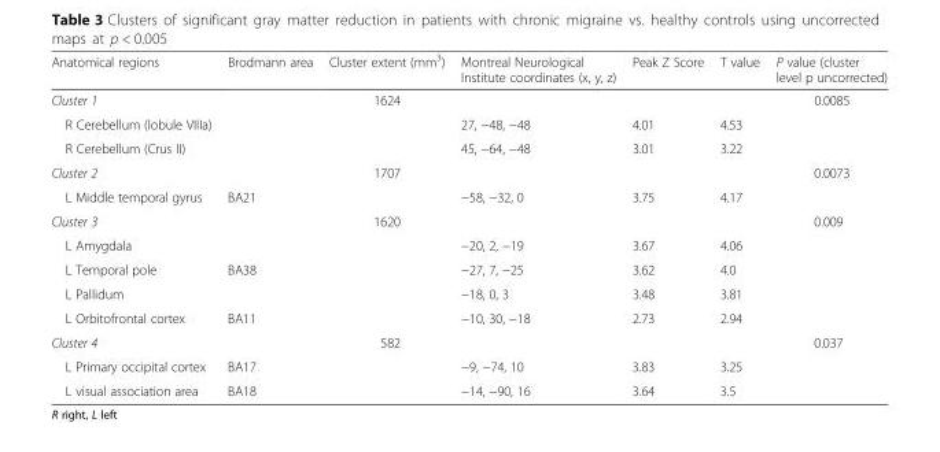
<table><thead><tr><td>Anatomical regions</td><td>Brodmann area</td><td>Cluster extent (mm<sup>3</sup>)</td><td>Montreal Neurological Institute coordinates (x, y, z)</td><td>Peak Z Score</td><td>T value</td><td>P value (cluster level p uncorrected)</td></tr></thead><tbody><tr><td>Cluster 1</td><td></td><td>1624</td><td></td><td></td><td></td><td>0.0085</td></tr><tr><td>R Cerebellum (lobule VIIIa)</td><td></td><td></td><td>27, −48, −48</td><td>4.01</td><td>4.53</td><td></td></tr><tr><td>R Cerebellum (Crus II)</td><td></td><td></td><td>45, −64, −48</td><td>3.01</td><td>3.22</td><td></td></tr><tr><td>Cluster 2</td><td></td><td>1707</td><td></td><td></td><td></td><td>0.0073</td></tr><tr><td>L Middle temporal gyrus</td><td>BA21</td><td></td><td>−58, −32, 0</td><td>3.75</td><td>4.17</td><td></td></tr><tr><td>Cluster 3</td><td></td><td>1620</td><td></td><td></td><td></td><td>0.009</td></tr><tr><td>L Amygdala</td><td></td><td></td><td>−20, 2, −19</td><td>3.67</td><td>4.06</td><td></td></tr><tr><td>L Temporal pole</td><td>BA38</td><td></td><td>−27, 7, −25</td><td>3.62</td><td>4.0</td><td></td></tr><tr><td>L Pallidum</td><td></td><td></td><td>−18, 0, 3</td><td>3.48</td><td>3.81</td><td></td></tr><tr><td>L Orbitofrontal cortex</td><td>BA11</td><td></td><td>−10, 30, −18</td><td>2.73</td><td>2.94</td><td></td></tr><tr><td>Cluster 4</td><td></td><td>582</td><td></td><td></td><td></td><td>0.037</td></tr><tr><td>L Primary occipital cortex</td><td>BA17</td><td></td><td>−9, −74, 10</td><td>3.83</td><td>3.25</td><td></td></tr><tr><td>L visual association area</td><td>BA18</td><td></td><td>−14, −90, 16</td><td>3.64</td><td>3.5</td><td></td></tr></tbody></table>